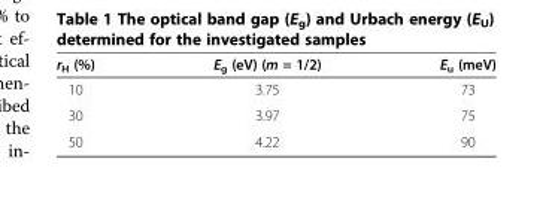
<table><thead><tr><td>r<sub>H</sub> (%)</td><td>E<sub>g</sub> (eV) (m = 1/2)</td><td>E<sub>u</sub> (meV)</td></tr></thead><tbody><tr><td>10</td><td>3.75</td><td>73</td></tr><tr><td>30</td><td>3.97</td><td>75</td></tr><tr><td>50</td><td>4.22</td><td>90</td></tr></tbody></table>